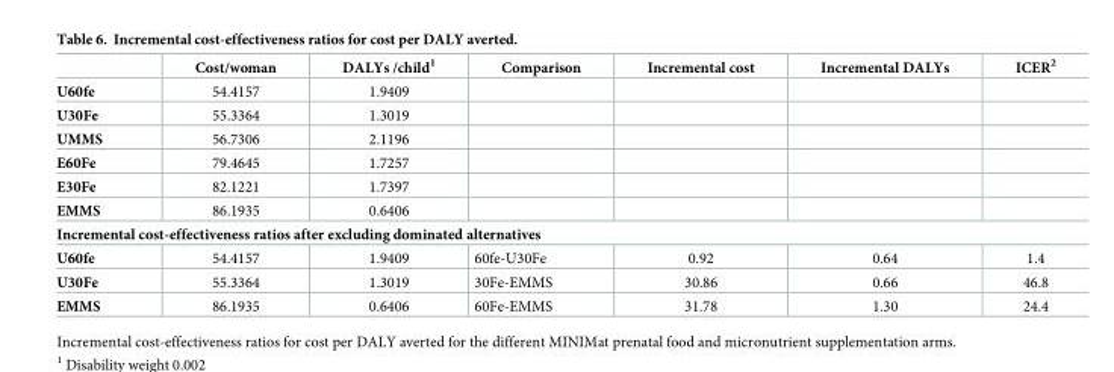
<table><thead><tr><td></td><td>Cost/woman</td><td>DALYs /child<sup>1</sup></td><td>Comparison</td><td>Incremental cost</td><td>Incremental DALYs</td><td>ICER<sup>2</sup></td></tr></thead><tbody><tr><td>U60fe</td><td>54.4157</td><td>1.9409</td><td></td><td></td><td></td><td></td></tr><tr><td>U30Fe</td><td>55.3364</td><td>1.3019</td><td></td><td></td><td></td><td></td></tr><tr><td>UMMS</td><td>56.7306</td><td>2.1196</td><td></td><td></td><td></td><td></td></tr><tr><td>E60Fe</td><td>79.4645</td><td>1.7257</td><td></td><td></td><td></td><td></td></tr><tr><td>E30Fe</td><td>82.1221</td><td>1.7397</td><td></td><td></td><td></td><td></td></tr><tr><td>EMMS</td><td>86.1935</td><td>0.6406</td><td></td><td></td><td></td><td></td></tr><tr><td colspan="7">Incremental cost-effectiveness ratios after excluding dominated alternatives</td></tr><tr><td>U60fe</td><td>54.4157</td><td>1.9409</td><td>60fe-U30Fe</td><td>0.92</td><td>0.64</td><td>1.4</td></tr><tr><td>U30Fe</td><td>55.3364</td><td>1.3019</td><td>30Fe-EMMS</td><td>30.86</td><td>0.66</td><td>46.8</td></tr><tr><td>EMMS</td><td>86.1935</td><td>0.6406</td><td>60Fe-EMMS</td><td>31.78</td><td>1.30</td><td>24.4</td></tr></tbody></table>